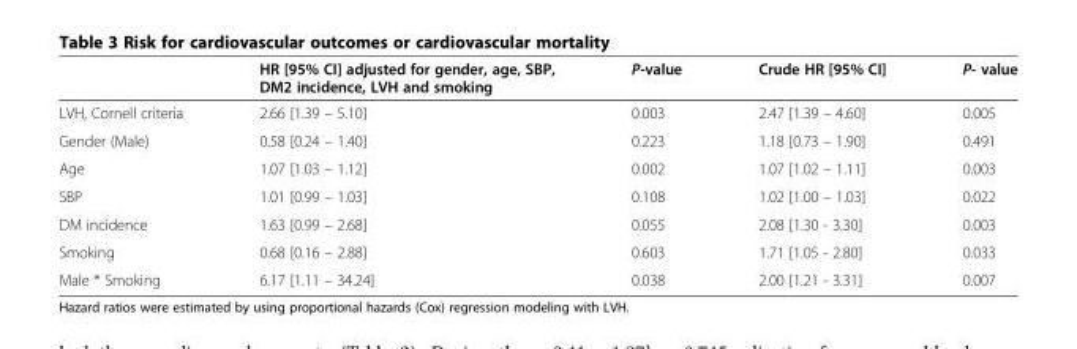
<table><thead><tr><td></td><td>HR [95% CI] adjusted for gender, age, SBP, DM2 incidence, LVH and smoking</td><td>P-value</td><td>Crude HR [95% CI]</td><td>P- value</td></tr></thead><tbody><tr><td>LVH, Cornell criteria</td><td>2.66 [1.39 – 5.10]</td><td>0.003</td><td>2.47 [1.39 – 4.60]</td><td>0.005</td></tr><tr><td>Gender (Male)</td><td>0.58 [0.24 – 1.40]</td><td>0.223</td><td>1.18 [0.73 – 1.90]</td><td>0.491</td></tr><tr><td>Age</td><td>1.07 [1.03 – 1.12]</td><td>0.002</td><td>1.07 [1.02 – 1.11]</td><td>0.003</td></tr><tr><td>SBP</td><td>1.01 [0.99 – 1.03]</td><td>0.108</td><td>1.02 [1.00 – 1.03]</td><td>0.022</td></tr><tr><td>DM incidence</td><td>1.63 [0.99 – 2.68]</td><td>0.055</td><td>2.08 [1.30 - 3.30]</td><td>0.003</td></tr><tr><td>Smoking</td><td>0.68 [0.16 – 2.88]</td><td>0.603</td><td>1.71 [1.05 - 2.80]</td><td>0.033</td></tr><tr><td>Male * Smoking</td><td>6.17 [1.11 – 34.24]</td><td>0.038</td><td>2.00 [1.21 - 3.31]</td><td>0.007</td></tr></tbody></table>